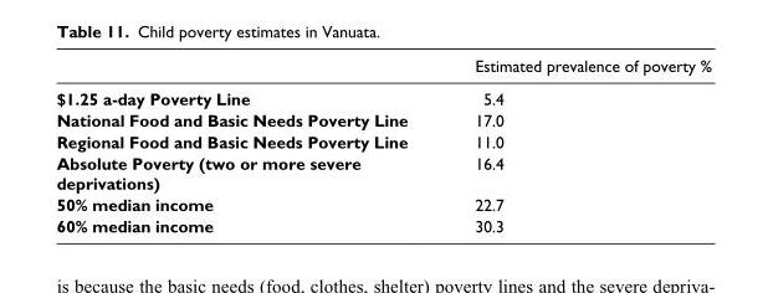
<table><thead><tr><td></td><td>Estimated prevalence of poverty %</td></tr></thead><tbody><tr><td>$1.25 a-day Poverty Line</td><td>5.4</td></tr><tr><td>National Food and Basic Needs Poverty Line</td><td>17.0</td></tr><tr><td>Regional Food and Basic Needs Poverty Line</td><td>11.0</td></tr><tr><td>Absolute Poverty (two or more severe deprivations)</td><td>16.4</td></tr><tr><td>50% median income</td><td>22.7</td></tr><tr><td>60% median income</td><td>30.3</td></tr></tbody></table>